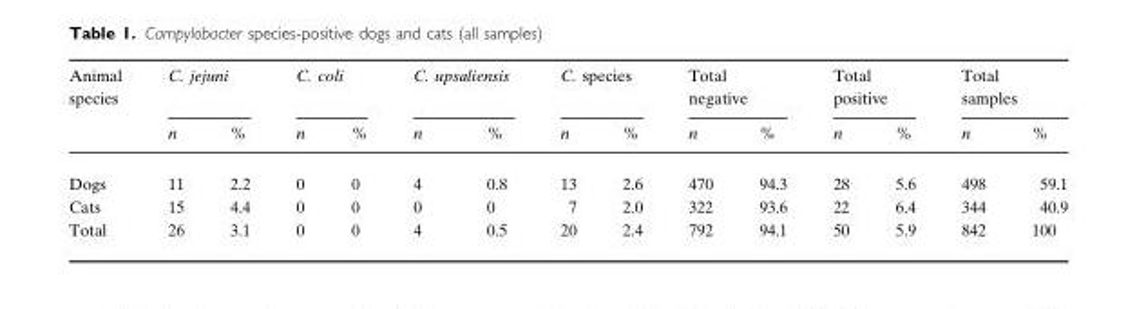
<table><thead><tr><td rowspan="2">Animal species</td><td colspan="2">C. jejuni</td><td colspan="2">C. coli</td><td colspan="2">C. upsaliensis</td><td colspan="2">C. species</td><td colspan="2">Total negative</td><td colspan="2">Total positive</td><td colspan="2">Total samples</td></tr><tr><td>n</td><td>%</td><td>n</td><td>%</td><td>n</td><td>%</td><td>n</td><td>%</td><td>n</td><td>%</td><td>n</td><td>%</td><td>n</td><td>%</td></tr></thead><tbody><tr><td>Dogs</td><td>11</td><td>2.2</td><td>0</td><td>0</td><td>4</td><td>0.8</td><td>13</td><td>2.6</td><td>470</td><td>94.3</td><td>28</td><td>5.6</td><td>498</td><td>59.1</td></tr><tr><td>Cats</td><td>15</td><td>4.4</td><td>0</td><td>0</td><td>0</td><td>0</td><td>7</td><td>2.0</td><td>322</td><td>93.6</td><td>22</td><td>6.4</td><td>344</td><td>40.9</td></tr><tr><td>Total</td><td>26</td><td>3.1</td><td>0</td><td>0</td><td>4</td><td>0.5</td><td>20</td><td>2.4</td><td>792</td><td>94.1</td><td>50</td><td>5.9</td><td>842</td><td>100</td></tr></tbody></table>